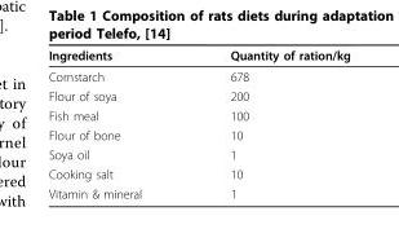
<table><thead><tr><td>Ingredients</td><td>Quantity of ration/kg</td></tr></thead><tbody><tr><td>Cornstarch</td><td>678</td></tr><tr><td>Flour of soya</td><td>200</td></tr><tr><td>Fish meal</td><td>100</td></tr><tr><td>Flour of bone</td><td>10</td></tr><tr><td>Soya oil</td><td>1</td></tr><tr><td>Cooking salt</td><td>10</td></tr><tr><td>Vitamin &amp; mineral</td><td>1</td></tr></tbody></table>